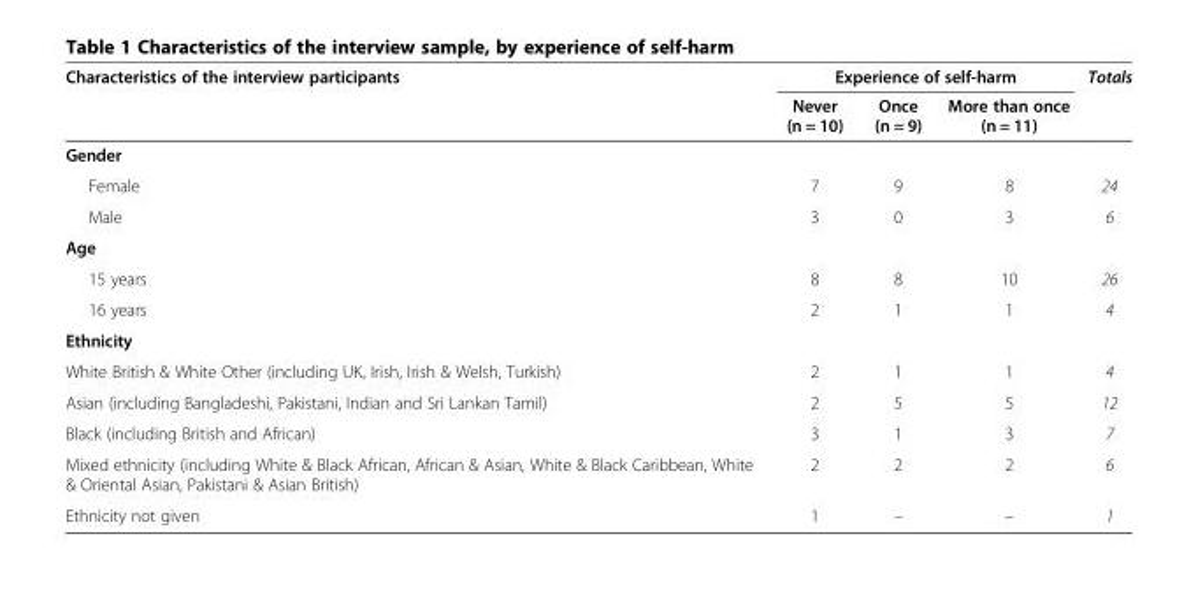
<table><thead><tr><td rowspan="2">Characteristics of the interview participants</td><td colspan="3">Experience of self-harm</td><td rowspan="2">Totals</td></tr><tr><td>Never (n = 10)</td><td>Once (n = 9)</td><td>More than once (n = 11)</td></tr></thead><tbody><tr><td colspan="5">Gender</td></tr><tr><td>Female</td><td>7</td><td>9</td><td>8</td><td>24</td></tr><tr><td>Male</td><td>3</td><td>0</td><td>3</td><td>6</td></tr><tr><td colspan="5">Age</td></tr><tr><td>15 years</td><td>8</td><td>8</td><td>10</td><td>26</td></tr><tr><td>16 years</td><td>2</td><td>1</td><td>1</td><td>4</td></tr><tr><td colspan="5">Ethnicity</td></tr><tr><td>White British &amp; White Other (including UK, Irish, Irish &amp; Welsh, Turkish)</td><td>2</td><td>1</td><td>1</td><td>4</td></tr><tr><td>Asian (including Bangladeshi, Pakistani, Indian and Sri Lankan Tamil)</td><td>2</td><td>5</td><td>5</td><td>12</td></tr><tr><td>Black (including British and African)</td><td>3</td><td>1</td><td>3</td><td>7</td></tr><tr><td>Mixed ethnicity (including White &amp; Black African, African &amp; Asian, White &amp; Black Caribbean, White &amp; Oriental Asian, Pakistani &amp; Asian British)</td><td>2</td><td>2</td><td>2</td><td>6</td></tr><tr><td>Ethnicity not given</td><td>1</td><td>–</td><td>–</td><td>1</td></tr></tbody></table>